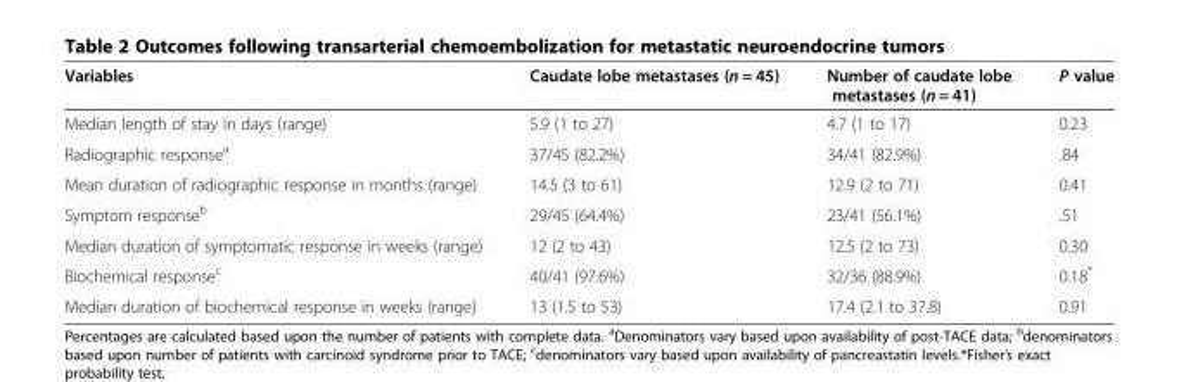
<table><thead><tr><td>Variables</td><td>Caudate lobe metastases (n = 45)</td><td>Number of caudate lobe metastases (n = 41)</td><td>P value</td></tr></thead><tbody><tr><td>Median length of stay in days (range)</td><td>5.9 (1 to 27)</td><td>4.7 (1 to 17)</td><td>0.23</td></tr><tr><td>Radiographic response<sup>a</sup></td><td>37/45 (82.2%)</td><td>34/41 (82.9%)</td><td>.84</td></tr><tr><td>Mean duration of radiographic response in months (range)</td><td>14.5 (3 to 61)</td><td>12.9 (2 to 71)</td><td>0.41</td></tr><tr><td>Symptom response<sup>b</sup></td><td>29/45 (64.4%)</td><td>23/41 (56.1%)</td><td>.51</td></tr><tr><td>Median duration of symptomatic response in weeks (range)</td><td>12 (2 to 43)</td><td>12.5 (2 to 73)</td><td>0.30</td></tr><tr><td>Biochemical response<sup>c</sup></td><td>40/41 (97.6%)</td><td>32/36 (88.9%)</td><td>0.18*</td></tr><tr><td>Median duration of biochemical response in weeks (range)</td><td>13 (1.5 to 53)</td><td>17.4 (2.1 to 37.8)</td><td>0.91</td></tr></tbody></table>